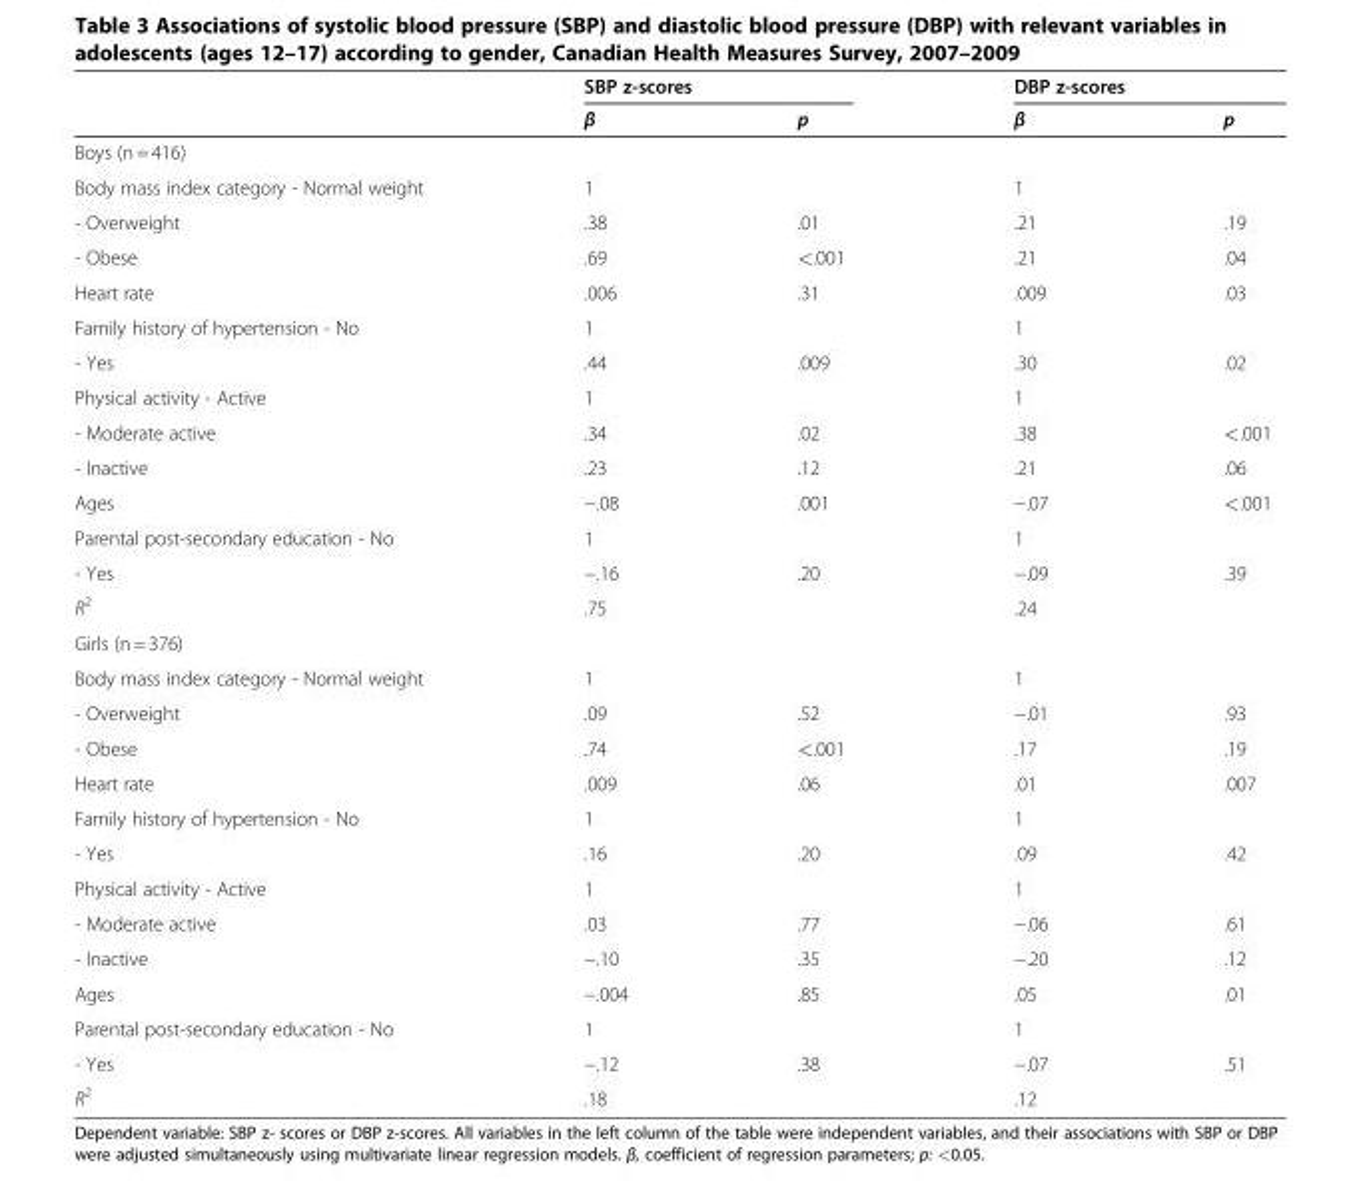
<table><thead><tr><td rowspan="2"></td><td colspan="2">SBP z-scores</td><td colspan="2">DBP z-scores</td></tr><tr><td>β</td><td>p</td><td>β</td><td>p</td></tr></thead><tbody><tr><td colspan="5">Boys (n = 416)</td></tr><tr><td>Body mass index category - Normal weight</td><td>1</td><td></td><td>1</td><td></td></tr><tr><td>- Overweight</td><td>.38</td><td>.01</td><td>.21</td><td>.19</td></tr><tr><td>- Obese</td><td>.69</td><td>&lt;.001</td><td>.21</td><td>.04</td></tr><tr><td>Heart rate</td><td>.006</td><td>.31</td><td>.009</td><td>.03</td></tr><tr><td>Family history of hypertension - No</td><td>1</td><td></td><td>1</td><td></td></tr><tr><td>- Yes</td><td>.44</td><td>.009</td><td>.30</td><td>.02</td></tr><tr><td>Physical activity - Active</td><td>1</td><td></td><td>1</td><td></td></tr><tr><td>- Moderate active</td><td>.34</td><td>.02</td><td>.38</td><td>&lt;.001</td></tr><tr><td>- Inactive</td><td>.23</td><td>.12</td><td>.21</td><td>.06</td></tr><tr><td>Ages</td><td>−.08</td><td>.001</td><td>−.07</td><td>&lt;.001</td></tr><tr><td>Parental post-secondary education - No</td><td>1</td><td></td><td>1</td><td></td></tr><tr><td>- Yes</td><td>−.16</td><td>.20</td><td>−.09</td><td>.39</td></tr><tr><td>R<sup>2</sup></td><td colspan="2">.75</td><td colspan="2">.24</td></tr><tr><td colspan="5">Girls (n = 376)</td></tr><tr><td>Body mass index category - Normal weight</td><td>1</td><td></td><td>1</td><td></td></tr><tr><td>- Overweight</td><td>.09</td><td>.52</td><td>−.01</td><td>.93</td></tr><tr><td>- Obese</td><td>.74</td><td>&lt;.001</td><td>.17</td><td>.19</td></tr><tr><td>Heart rate</td><td>.009</td><td>.06</td><td>.01</td><td>.007</td></tr><tr><td>Family history of hypertension - No</td><td>1</td><td></td><td>1</td><td></td></tr><tr><td>- Yes</td><td>.16</td><td>.20</td><td>.09</td><td>.42</td></tr><tr><td>Physical activity - Active</td><td>1</td><td></td><td>1</td><td></td></tr><tr><td>- Moderate active</td><td>.03</td><td>.77</td><td>−.06</td><td>.61</td></tr><tr><td>- Inactive</td><td>−.10</td><td>.35</td><td>−.20</td><td>.12</td></tr><tr><td>Ages</td><td>−.004</td><td>.85</td><td>.05</td><td>.01</td></tr><tr><td>Parental post-secondary education - No</td><td>1</td><td></td><td>1</td><td></td></tr><tr><td>- Yes</td><td>−.12</td><td>.38</td><td>−.07</td><td>.51</td></tr><tr><td>R<sup>2</sup></td><td colspan="2">.18</td><td colspan="2">.12</td></tr></tbody></table>